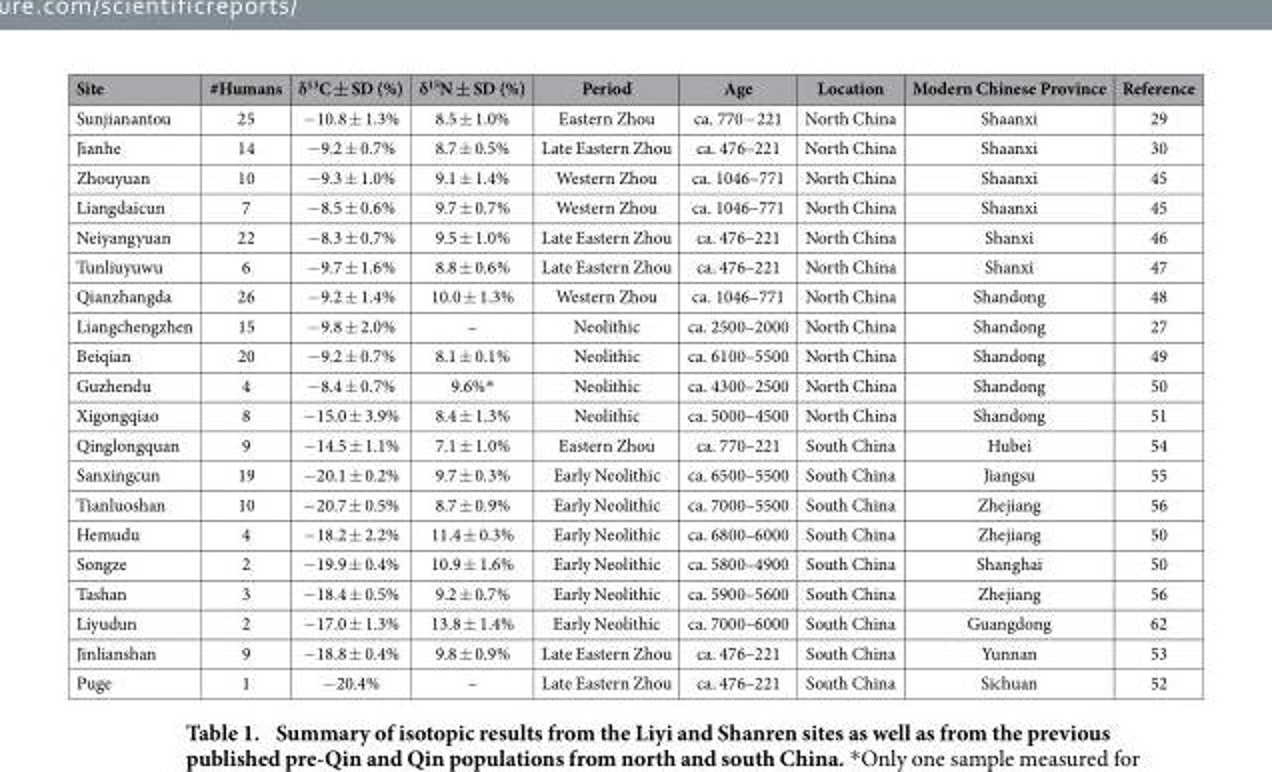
<table><thead><tr><td>Site</td><td>#Humans</td><td>δ<sup>13</sup>C ± SD (%)</td><td>δ<sup>15</sup>N ± SD (%)</td><td>Period</td><td>Age</td><td>Location</td><td>Modern Chinese Province</td><td>Reference</td></tr></thead><tbody><tr><td>Sunjianantou</td><td>25</td><td>− 10.8 ± 1.3%</td><td>8.5 ± 1.0%</td><td>Eastern Zhou</td><td>ca. 770− 221</td><td>North China</td><td>Shaanxi</td><td>29</td></tr><tr><td>Jianhe</td><td>14</td><td>− 9.2 ± 0.7%</td><td>8.7 ± 0.5%</td><td>Late Eastern Zhou</td><td>ca. 476–221</td><td>North China</td><td>Shaanxi</td><td>30</td></tr><tr><td>Zhouyuan</td><td>10</td><td>− 9.3 ± 1.0%</td><td>9.1 ± 1.4%</td><td>Western Zhou</td><td>ca. 1046–771</td><td>North China</td><td>Shaanxi</td><td>45</td></tr><tr><td>Liangdaicun</td><td>7</td><td>− 8.5 ± 0.6%</td><td>9.7 ± 0.7%</td><td>Western Zhou</td><td>ca. 1046–771</td><td>North China</td><td>Shaanxi</td><td>45</td></tr><tr><td>Neiyangyuan</td><td>22</td><td>− 8.3 ± 0.7%</td><td>9.5 ± 1.0%</td><td>Late Eastern Zhou</td><td>ca. 476–221</td><td>North China</td><td>Shanxi</td><td>46</td></tr><tr><td>Tunliuyuwu</td><td>6</td><td>− 9.7 ± 1.6%</td><td>8.8 ± 0.6%</td><td>Late Eastern Zhou</td><td>ca. 476–221</td><td>North China</td><td>Shanxi</td><td>47</td></tr><tr><td>Qianzhangda</td><td>26</td><td>− 9.2 ± 1.4%</td><td>10.0 ± 1.3%</td><td>Western Zhou</td><td>ca. 1046–771</td><td>North China</td><td>Shandong</td><td>48</td></tr><tr><td>Liangchengzhen</td><td>15</td><td>− 9.8 ± 2.0%</td><td>–</td><td>Neolithic</td><td>ca. 2500–2000</td><td>North China</td><td>Shandong</td><td>27</td></tr><tr><td>Beiqian</td><td>20</td><td>− 9.2 ± 0.7%</td><td>8.1 ± 0.1%</td><td>Neolithic</td><td>ca. 6100–5500</td><td>North China</td><td>Shandong</td><td>49</td></tr><tr><td>Guzhendu</td><td>4</td><td>− 8.4 ± 0.7%</td><td>9.6%*</td><td>Neolithic</td><td>ca. 4300–2500</td><td>North China</td><td>Shandong</td><td>50</td></tr><tr><td>Xigongqiao</td><td>8</td><td>− 15.0 ± 3.9%</td><td>8.4 ± 1.3%</td><td>Neolithic</td><td>ca. 5000–4500</td><td>North China</td><td>Shandong</td><td>51</td></tr><tr><td>Qinglongquan</td><td>9</td><td>− 14.5 ± 1.1%</td><td>7.1 ± 1.0%</td><td>Eastern Zhou</td><td>ca. 770–221</td><td>South China</td><td>Hubei</td><td>54</td></tr><tr><td>Sanxingcun</td><td>19</td><td>− 20.1 ± 0.2%</td><td>9.7 ± 0.3%</td><td>Early Neolithic</td><td>ca. 6500–5500</td><td>South China</td><td>Jiangsu</td><td>55</td></tr><tr><td>Tianluoshan</td><td>10</td><td>− 20.7 ± 0.5%</td><td>8.7 ± 0.9%</td><td>Early Neolithic</td><td>ca. 7000–5500</td><td>South China</td><td>Zhejiang</td><td>56</td></tr><tr><td>Hemudu</td><td>4</td><td>− 18.2 ± 2.2%</td><td>11.4 ± 0.3%</td><td>Early Neolithic</td><td>ca. 6800–6000</td><td>South China</td><td>Zhejiang</td><td>50</td></tr><tr><td>Songze</td><td>2</td><td>− 19.9 ± 0.4%</td><td>10.9 ± 1.6%</td><td>Early Neolithic</td><td>ca. 5800–4900</td><td>South China</td><td>Shanghai</td><td>50</td></tr><tr><td>Tashan</td><td>3</td><td>− 18.4 ± 0.5%</td><td>9.2 ± 0.7%</td><td>Early Neolithic</td><td>ca. 5900–5600</td><td>South China</td><td>Zhejiang</td><td>56</td></tr><tr><td>Liyudun</td><td>2</td><td>− 17.0 ± 1.3%</td><td>13.8 ± 1.4%</td><td>Early Neolithic</td><td>ca. 7000–6000</td><td>South China</td><td>Guangdong</td><td>62</td></tr><tr><td>Jinlianshan</td><td>9</td><td>− 18.8 ± 0.4%</td><td>9.8 ± 0.9%</td><td>Late Eastern Zhou</td><td>ca. 476–221</td><td>South China</td><td>Yunnan</td><td>53</td></tr><tr><td>Puge</td><td>1</td><td>− 20.4%</td><td>–</td><td>Late Eastern Zhou</td><td>ca. 476–221</td><td>South China</td><td>Sichuan</td><td>52</td></tr></tbody></table>